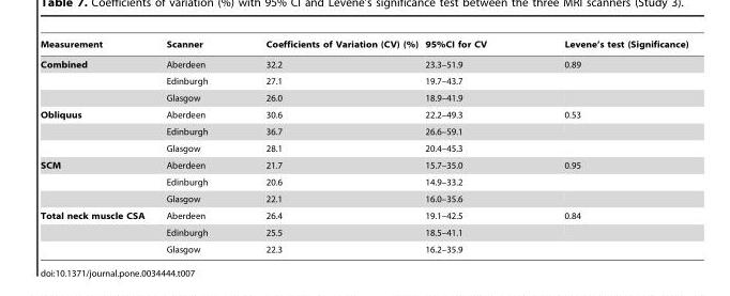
<table><thead><tr><td>Measurement</td><td>Scanner</td><td>Coefficients of Variation (CV) (%)</td><td>95%CI for CV</td><td>Levene’s test (Significance)</td></tr></thead><tbody><tr><td rowspan="3">Combined</td><td>Aberdeen</td><td>32.2</td><td>23.3–51.9</td><td>0.89</td></tr><tr><td>Edinburgh</td><td>27.1</td><td>19.7–43.7</td><td></td></tr><tr><td>Glasgow</td><td>26.0</td><td>18.9–41.9</td><td></td></tr><tr><td rowspan="3">Obliquus</td><td>Aberdeen</td><td>30.6</td><td>22.2–49.3</td><td>0.53</td></tr><tr><td>Edinburgh</td><td>36.7</td><td>26.6–59.1</td><td></td></tr><tr><td>Glasgow</td><td>28.1</td><td>20.4–45.3</td><td></td></tr><tr><td rowspan="3">SCM</td><td>Aberdeen</td><td>21.7</td><td>15.7–35.0</td><td>0.95</td></tr><tr><td>Edinburgh</td><td>20.6</td><td>14.9–33.2</td><td></td></tr><tr><td>Glasgow</td><td>22.1</td><td>16.0–35.6</td><td></td></tr><tr><td rowspan="3">Total neck muscle CSA</td><td>Aberdeen</td><td>26.4</td><td>19.1–42.5</td><td>0.84</td></tr><tr><td>Edinburgh</td><td>25.5</td><td>18.5–41.1</td><td></td></tr><tr><td>Glasgow</td><td>22.3</td><td>16.2–35.9</td><td></td></tr></tbody></table>